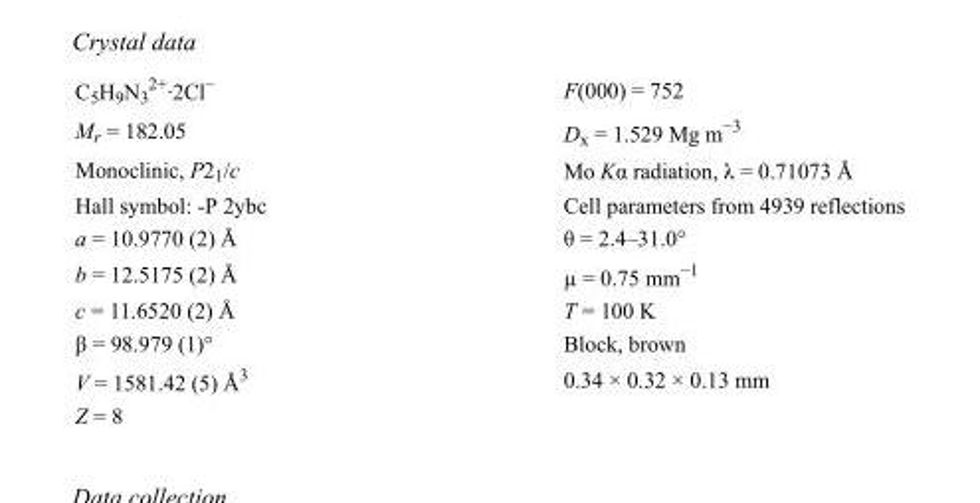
<table><tbody><tr><td>C<sub>5</sub>H<sub>9</sub>N<sub>3</sub> <sup>2+</sup>·2Cl<sup>−</sup></td><td>F(000) = 752</td></tr><tr><td>M<sub>r</sub> = 182.05</td><td>D<sub>x</sub> = 1.529 Mg m<sup>−3</sup></td></tr><tr><td>Monoclinic, P2<sub>1</sub>/c</td><td>Mo Kα radiation, λ = 0.71073 Å</td></tr><tr><td>Hall symbol: -P 2ybc</td><td>Cell parameters from 4939 reflections</td></tr><tr><td>a = 10.9770 (2) Å</td><td>θ = 2.4–31.0°</td></tr><tr><td>b = 12.5175 (2) Å</td><td>µ = 0.75 mm<sup>−1</sup></td></tr><tr><td>c = 11.6520 (2) Å</td><td>T = 100 K</td></tr><tr><td>β = 98.979 (1)°</td><td>Block, brown</td></tr><tr><td>V = 1581.42 (5) Å<sup>3</sup></td><td>0.34 × 0.32 × 0.13 mm</td></tr><tr><td>Z = 8</td><td></td></tr></tbody></table>